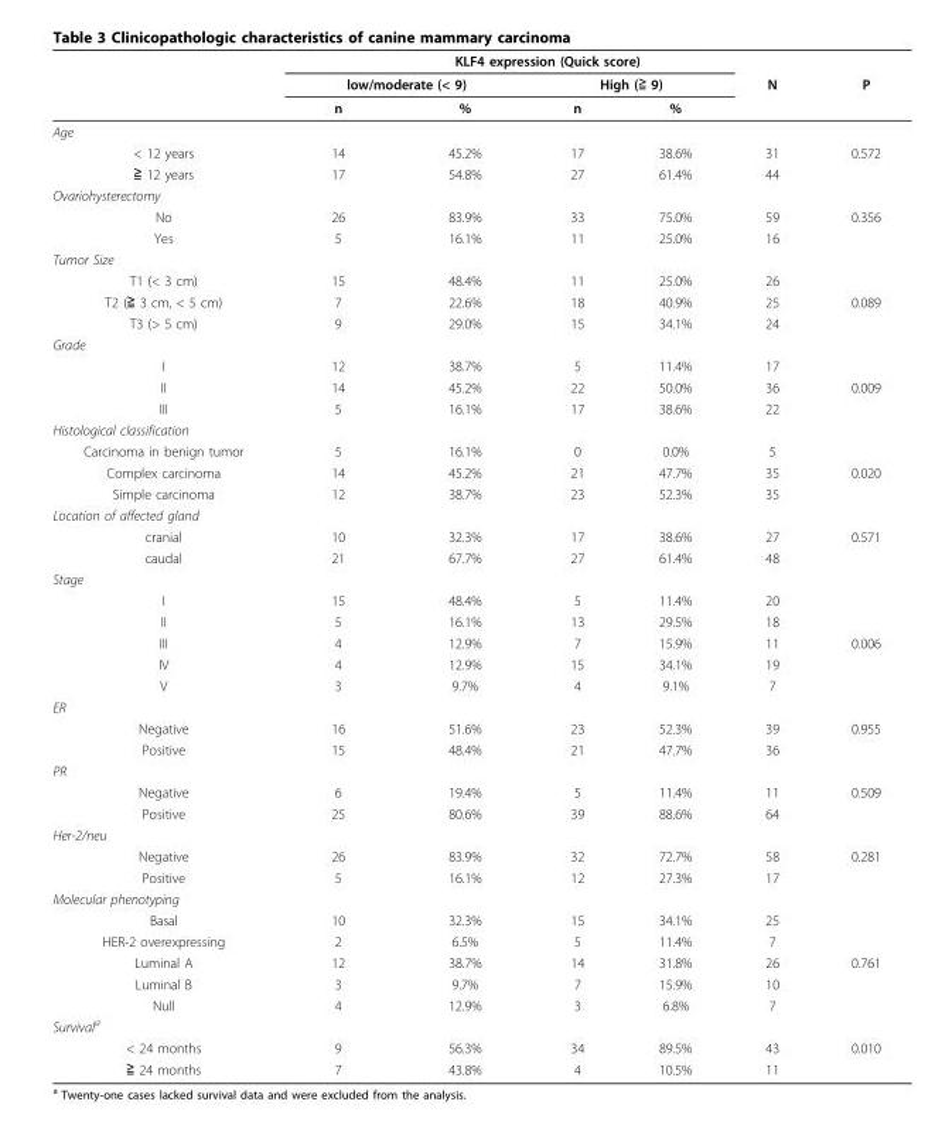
<table><thead><tr><td rowspan="3"></td><td colspan="5">KLF4 expression (Quick score)</td><td rowspan="3">P</td></tr><tr><td colspan="2">low/moderate (&lt; 9)</td><td colspan="2">High (≧ 9)</td><td rowspan="2">N</td></tr><tr><td>n</td><td>%</td><td>n</td><td>%</td></tr></thead><tbody><tr><td colspan="7">Age</td></tr><tr><td>&lt; 12 years</td><td>14</td><td>45.2%</td><td>17</td><td>38.6%</td><td>31</td><td>0.572</td></tr><tr><td>≧ 12 years</td><td>17</td><td>54.8%</td><td>27</td><td>61.4%</td><td>44</td><td></td></tr><tr><td colspan="7">Ovariohysterectomy</td></tr><tr><td>No</td><td>26</td><td>83.9%</td><td>33</td><td>75.0%</td><td>59</td><td>0.356</td></tr><tr><td>Yes</td><td>5</td><td>16.1%</td><td>11</td><td>25.0%</td><td>16</td><td></td></tr><tr><td colspan="7">Tumor Size</td></tr><tr><td>T1 (&lt; 3 cm)</td><td>15</td><td>48.4%</td><td>11</td><td>25.0%</td><td>26</td><td></td></tr><tr><td>T2 (≧ 3 cm, &lt; 5 cm)</td><td>7</td><td>22.6%</td><td>18</td><td>40.9%</td><td>25</td><td>0.089</td></tr><tr><td>T3 (&gt; 5 cm)</td><td>9</td><td>29.0%</td><td>15</td><td>34.1%</td><td>24</td><td></td></tr><tr><td colspan="7">Grade</td></tr><tr><td>I</td><td>12</td><td>38.7%</td><td>5</td><td>11.4%</td><td>17</td><td></td></tr><tr><td>II</td><td>14</td><td>45.2%</td><td>22</td><td>50.0%</td><td>36</td><td>0.009</td></tr><tr><td>III</td><td>5</td><td>16.1%</td><td>17</td><td>38.6%</td><td>22</td><td></td></tr><tr><td colspan="7">Histological classification</td></tr><tr><td>Carcinoma in benign tumor</td><td>5</td><td>16.1%</td><td>0</td><td>0.0%</td><td>5</td><td></td></tr><tr><td>Complex carcinoma</td><td>14</td><td>45.2%</td><td>21</td><td>47.7%</td><td>35</td><td>0.020</td></tr><tr><td>Simple carcinoma</td><td>12</td><td>38.7%</td><td>23</td><td>52.3%</td><td>35</td><td></td></tr><tr><td colspan="7">Location of affected gland</td></tr><tr><td>cranial</td><td>10</td><td>32.3%</td><td>17</td><td>38.6%</td><td>27</td><td>0.571</td></tr><tr><td>caudal</td><td>21</td><td>67.7%</td><td>27</td><td>61.4%</td><td>48</td><td></td></tr><tr><td colspan="7">Stage</td></tr><tr><td>I</td><td>15</td><td>48.4%</td><td>5</td><td>11.4%</td><td>20</td><td></td></tr><tr><td>II</td><td>5</td><td>16.1%</td><td>13</td><td>29.5%</td><td>18</td><td></td></tr><tr><td>III</td><td>4</td><td>12.9%</td><td>7</td><td>15.9%</td><td>11</td><td>0.006</td></tr><tr><td>IV</td><td>4</td><td>12.9%</td><td>15</td><td>34.1%</td><td>19</td><td></td></tr><tr><td>V</td><td>3</td><td>9.7%</td><td>4</td><td>9.1%</td><td>7</td><td></td></tr><tr><td colspan="7">ER</td></tr><tr><td>Negative</td><td>16</td><td>51.6%</td><td>23</td><td>52.3%</td><td>39</td><td>0.955</td></tr><tr><td>Positive</td><td>15</td><td>48.4%</td><td>21</td><td>47.7%</td><td>36</td><td></td></tr><tr><td colspan="7">PR</td></tr><tr><td>Negative</td><td>6</td><td>19.4%</td><td>5</td><td>11.4%</td><td>11</td><td>0.509</td></tr><tr><td>Positive</td><td>25</td><td>80.6%</td><td>39</td><td>88.6%</td><td>64</td><td></td></tr><tr><td colspan="7">Her-2/neu</td></tr><tr><td>Negative</td><td>26</td><td>83.9%</td><td>32</td><td>72.7%</td><td>58</td><td>0.281</td></tr><tr><td>Positive</td><td>5</td><td>16.1%</td><td>12</td><td>27.3%</td><td>17</td><td></td></tr><tr><td colspan="7">Molecular phenotyping</td></tr><tr><td>Basal</td><td>10</td><td>32.3%</td><td>15</td><td>34.1%</td><td>25</td><td></td></tr><tr><td>HER-2 overexpressing</td><td>2</td><td>6.5%</td><td>5</td><td>11.4%</td><td>7</td><td></td></tr><tr><td>Luminal A</td><td>12</td><td>38.7%</td><td>14</td><td>31.8%</td><td>26</td><td>0.761</td></tr><tr><td>Luminal B</td><td>3</td><td>9.7%</td><td>7</td><td>15.9%</td><td>10</td><td></td></tr><tr><td>Null</td><td>4</td><td>12.9%</td><td>3</td><td>6.8%</td><td>7</td><td></td></tr><tr><td colspan="7">Survival<sup>a</sup></td></tr><tr><td>&lt; 24 months</td><td>9</td><td>56.3%</td><td>34</td><td>89.5%</td><td>43</td><td>0.010</td></tr><tr><td>≧ 24 months</td><td>7</td><td>43.8%</td><td>4</td><td>10.5%</td><td>11</td><td></td></tr></tbody></table>